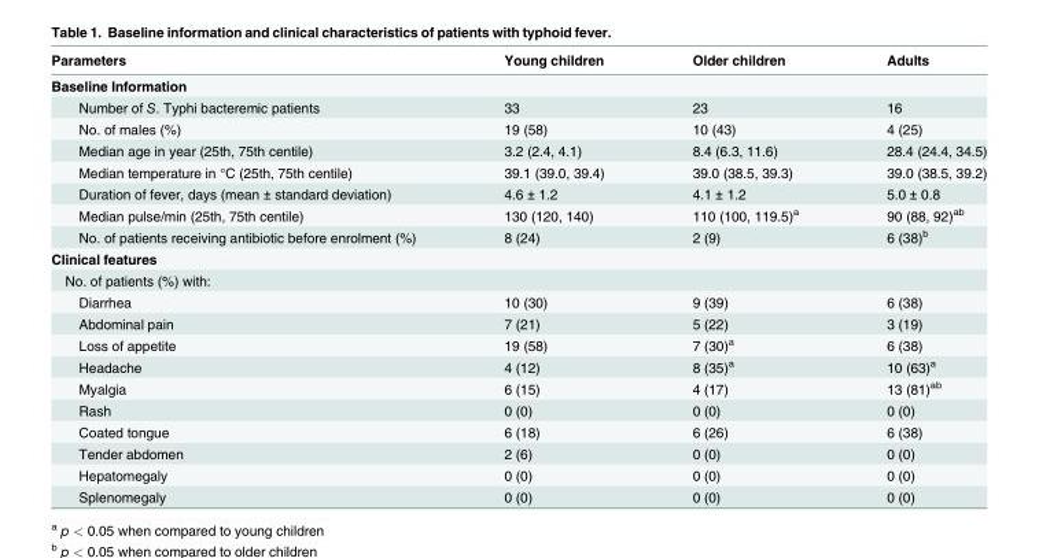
<table><thead><tr><td>Parameters</td><td>Young children</td><td>Older children</td><td>Adults</td></tr></thead><tbody><tr><td colspan="4">Baseline Information</td></tr><tr><td>Number of S. Typhi bacteremic patients</td><td>33</td><td>23</td><td>16</td></tr><tr><td>No. of males (%)</td><td>19 (58)</td><td>10 (43)</td><td>4 (25)</td></tr><tr><td>Median age in year (25th, 75th centile)</td><td>3.2 (2.4, 4.1)</td><td>8.4 (6.3, 11.6)</td><td>28.4 (24.4, 34.5)</td></tr><tr><td>Median temperature in °C (25th, 75th centile)</td><td>39.1 (39.0, 39.4)</td><td>39.0 (38.5, 39.3)</td><td>39.0 (38.5, 39.2)</td></tr><tr><td>Duration of fever, days (mean ± standard deviation)</td><td>4.6 ± 1.2</td><td>4.1 ± 1.2</td><td>5.0 ± 0.8</td></tr><tr><td>Median pulse/min (25th, 75th centile)</td><td>130 (120, 140)</td><td>110 (100, 119.5)<sup>a</sup></td><td>90 (88, 92)<sup>ab</sup></td></tr><tr><td>No. of patients receiving antibiotic before enrolment (%)</td><td>8 (24)</td><td>2 (9)</td><td>6 (38)<sup>b</sup></td></tr><tr><td colspan="4">Clinical features</td></tr><tr><td colspan="4">No. of patients (%) with:</td></tr><tr><td>Diarrhea</td><td>10 (30)</td><td>9 (39)</td><td>6 (38)</td></tr><tr><td>Abdominal pain</td><td>7 (21)</td><td>5 (22)</td><td>3 (19)</td></tr><tr><td>Loss of appetite</td><td>19 (58)</td><td>7 (30)<sup>a</sup></td><td>6 (38)</td></tr><tr><td>Headache</td><td>4 (12)</td><td>8 (35)<sup>a</sup></td><td>10 (63)<sup>a</sup></td></tr><tr><td>Myalgia</td><td>6 (15)</td><td>4 (17)</td><td>13 (81)<sup>ab</sup></td></tr><tr><td>Rash</td><td>0 (0)</td><td>0 (0)</td><td>0 (0)</td></tr><tr><td>Coated tongue</td><td>6 (18)</td><td>6 (26)</td><td>6 (38)</td></tr><tr><td>Tender abdomen</td><td>2 (6)</td><td>0 (0)</td><td>0 (0)</td></tr><tr><td>Hepatomegaly</td><td>0 (0)</td><td>0 (0)</td><td>0 (0)</td></tr><tr><td>Splenomegaly</td><td>0 (0)</td><td>0 (0)</td><td>0 (0)</td></tr></tbody></table>